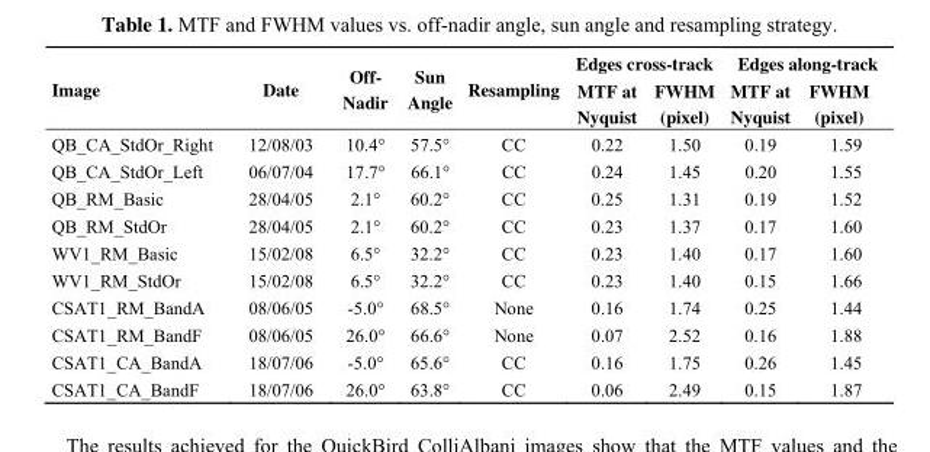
<table><thead><tr><td rowspan="2">Image</td><td rowspan="2">Date</td><td rowspan="2">Off- Nadir</td><td rowspan="2">Sun Angle</td><td rowspan="2">Resampling</td><td colspan="2">Edges cross-track</td><td colspan="2">Edges along-track</td></tr><tr><td>MTF at Nyquist</td><td>FWHM (pixel)</td><td>MTF at Nyquist</td><td>FWHM (pixel)</td></tr></thead><tbody><tr><td>QB_CA_StdOr_Right</td><td>12/08/03</td><td>10.4°</td><td>57.5°</td><td>CC</td><td>0.22</td><td>1.50</td><td>0.19</td><td>1.59</td></tr><tr><td>QB_CA_StdOr_Left</td><td>06/07/04</td><td>17.7°</td><td>66.1°</td><td>CC</td><td>0.24</td><td>1.45</td><td>0.20</td><td>1.55</td></tr><tr><td>QB_RM_Basic</td><td>28/04/05</td><td>2.1°</td><td>60.2°</td><td>CC</td><td>0.25</td><td>1.31</td><td>0.19</td><td>1.52</td></tr><tr><td>QB_RM_StdOr</td><td>28/04/05</td><td>2.1°</td><td>60.2°</td><td>CC</td><td>0.23</td><td>1.37</td><td>0.17</td><td>1.60</td></tr><tr><td>WV1_RM_Basic</td><td>15/02/08</td><td>6.5°</td><td>32.2°</td><td>CC</td><td>0.23</td><td>1.40</td><td>0.17</td><td>1.60</td></tr><tr><td>WV1_RM_StdOr</td><td>15/02/08</td><td>6.5°</td><td>32.2°</td><td>CC</td><td>0.23</td><td>1.40</td><td>0.15</td><td>1.66</td></tr><tr><td>CSAT1_RM_BandA</td><td>08/06/05</td><td>-5.0°</td><td>68.5°</td><td>None</td><td>0.16</td><td>1.74</td><td>0.25</td><td>1.44</td></tr><tr><td>CSAT1_RM_BandF</td><td>08/06/05</td><td>26.0°</td><td>66.6°</td><td>None</td><td>0.07</td><td>2.52</td><td>0.16</td><td>1.88</td></tr><tr><td>CSAT1_CA_BandA</td><td>18/07/06</td><td>-5.0°</td><td>65.6°</td><td>CC</td><td>0.16</td><td>1.75</td><td>0.26</td><td>1.45</td></tr><tr><td>CSAT1_CA_BandF</td><td>18/07/06</td><td>26.0°</td><td>63.8°</td><td>CC</td><td>0.06</td><td>2.49</td><td>0.15</td><td>1.87</td></tr></tbody></table>